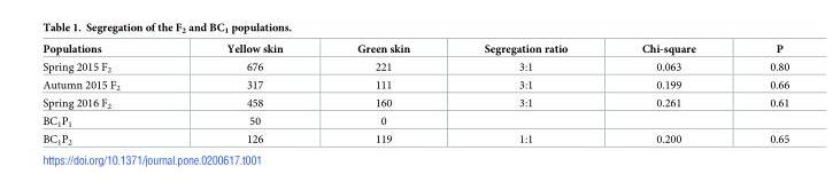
<table><thead><tr><td>Populations</td><td>Yellow skin</td><td>Green skin</td><td>Segregation ratio</td><td>Chi-square</td><td>P</td></tr></thead><tbody><tr><td>Spring 2015 F<sub>2</sub></td><td>676</td><td>221</td><td>3:1</td><td>0.063</td><td>0.80</td></tr><tr><td>Autumn 2015 F<sub>2</sub></td><td>317</td><td>111</td><td>3:1</td><td>0.199</td><td>0.66</td></tr><tr><td>Spring 2016 F<sub>2</sub></td><td>458</td><td>160</td><td>3:1</td><td>0.261</td><td>0.61</td></tr><tr><td>BC<sub>1</sub>P<sub>1</sub></td><td>50</td><td>0</td><td></td><td></td><td></td></tr><tr><td>BC<sub>1</sub>P<sub>2</sub></td><td>126</td><td>119</td><td>1:1</td><td>0.200</td><td>0.65</td></tr></tbody></table>